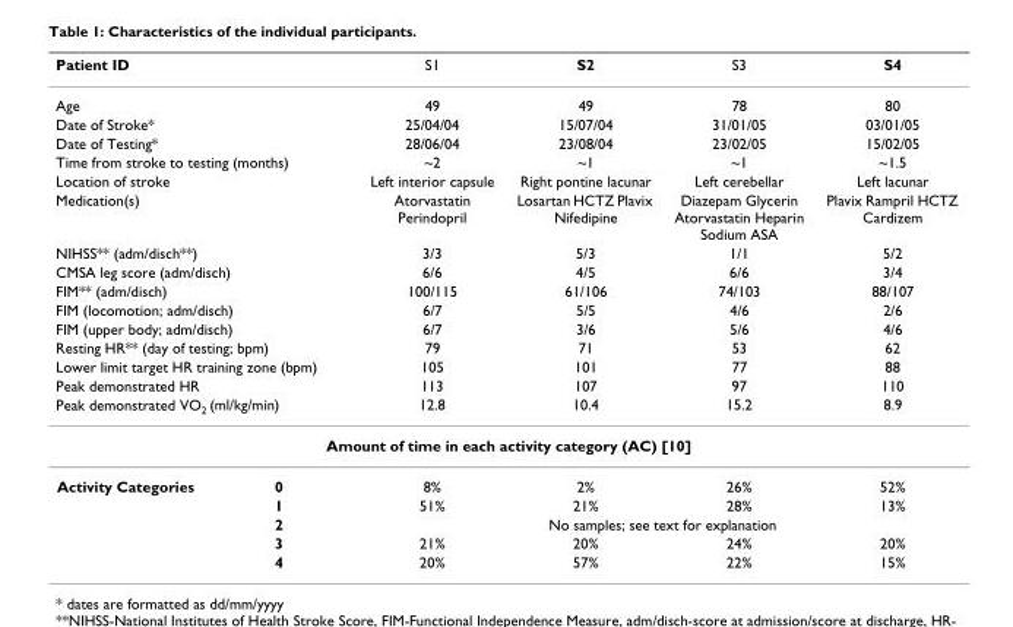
<table><thead><tr><td colspan="2">Patient ID</td><td>S1</td><td>S2</td><td>S3</td><td>S4</td></tr></thead><tbody><tr><td colspan="2">Age</td><td>49</td><td>49</td><td>78</td><td>80</td></tr><tr><td colspan="2">Date of Stroke*</td><td>25/04/04</td><td>15/07/04</td><td>31/01/05</td><td>03/01/05</td></tr><tr><td colspan="2">Date of Testing*</td><td>28/06/04</td><td>23/08/04</td><td>23/02/05</td><td>15/02/05</td></tr><tr><td colspan="2">Time from stroke to testing (months)</td><td>~2</td><td>~1</td><td>~1</td><td>~1.5</td></tr><tr><td colspan="2">Location of stroke</td><td>Left interior capsule</td><td>Right pontine lacunar</td><td>Left cerebellar</td><td>Left lacunar</td></tr><tr><td colspan="2">Medication(s)</td><td>Atorvastatin Perindopril</td><td>Losartan HCTZ Plavix Nifedipine</td><td>Diazepam Glycerin Atorvastatin Heparin Sodium ASA</td><td>Plavix Rampril HCTZ Cardizem</td></tr><tr><td colspan="2">NIHSS** (adm/disch**)</td><td>3/3</td><td>5/3</td><td>1/1</td><td>5/2</td></tr><tr><td colspan="2">CMSA leg score (adm/disch)</td><td>6/6</td><td>4/5</td><td>6/6</td><td>3/4</td></tr><tr><td colspan="2">FIM** (adm/disch)</td><td>100/115</td><td>61/106</td><td>74/103</td><td>88/107</td></tr><tr><td colspan="2">FIM (locomotion; adm/disch)</td><td>6/7</td><td>5/5</td><td>4/6</td><td>2/6</td></tr><tr><td colspan="2">FIM (upper body; adm/disch)</td><td>6/7</td><td>3/6</td><td>5/6</td><td>4/6</td></tr><tr><td colspan="2">Resting HR** (day of testing; bpm)</td><td>79</td><td>71</td><td>53</td><td>62</td></tr><tr><td colspan="2">Lower limit target HR training zone (bpm)</td><td>105</td><td>101</td><td>77</td><td>88</td></tr><tr><td colspan="2">Peak demonstrated HR</td><td>113</td><td>107</td><td>97</td><td>110</td></tr><tr><td colspan="2">Peak demonstrated VO<sub>2</sub> (ml/kg/min)</td><td>12.8</td><td>10.4</td><td>15.2</td><td>8.9</td></tr><tr><td colspan="6">Amount of time in each activity category (AC) [10]</td></tr><tr><td rowspan="5">Activity Categories</td><td>0</td><td>8%</td><td>2%</td><td>26%</td><td>52%</td></tr><tr><td>1</td><td>51%</td><td>21%</td><td>28%</td><td>13%</td></tr><tr><td>2</td><td colspan="4">No samples; see text for explanation</td></tr><tr><td>3</td><td>21%</td><td>20%</td><td>24%</td><td>20%</td></tr><tr><td>4</td><td>20%</td><td>57%</td><td>22%</td><td>15%</td></tr></tbody></table>